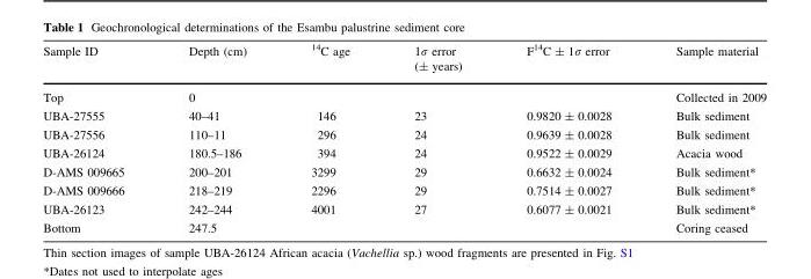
<table><thead><tr><td>Sample ID</td><td>Depth (cm)</td><td><sup>14</sup>C age</td><td>1σ error (± years)</td><td>F<sup>14</sup>C ± 1σ error</td><td>Sample material</td></tr></thead><tbody><tr><td>Top</td><td>0</td><td></td><td></td><td></td><td>Collected in 2009</td></tr><tr><td>UBA-27555</td><td>40–41</td><td>146</td><td>23</td><td>0.9820 ± 0.0028</td><td>Bulk sediment</td></tr><tr><td>UBA-27556</td><td>110–11</td><td>296</td><td>24</td><td>0.9639 ± 0.0028</td><td>Bulk sediment</td></tr><tr><td>UBA-26124</td><td>180.5–186</td><td>394</td><td>24</td><td>0.9522 ± 0.0029</td><td>Acacia wood</td></tr><tr><td>D-AMS 009665</td><td>200–201</td><td>3299</td><td>29</td><td>0.6632 ± 0.0024</td><td>Bulk sediment*</td></tr><tr><td>D-AMS 009666</td><td>218–219</td><td>2296</td><td>29</td><td>0.7514 ± 0.0027</td><td>Bulk sediment*</td></tr><tr><td>UBA-26123</td><td>242–244</td><td>4001</td><td>27</td><td>0.6077 ± 0.0021</td><td>Bulk sediment*</td></tr><tr><td>Bottom</td><td>247.5</td><td></td><td></td><td></td><td>Coring ceased</td></tr></tbody></table>